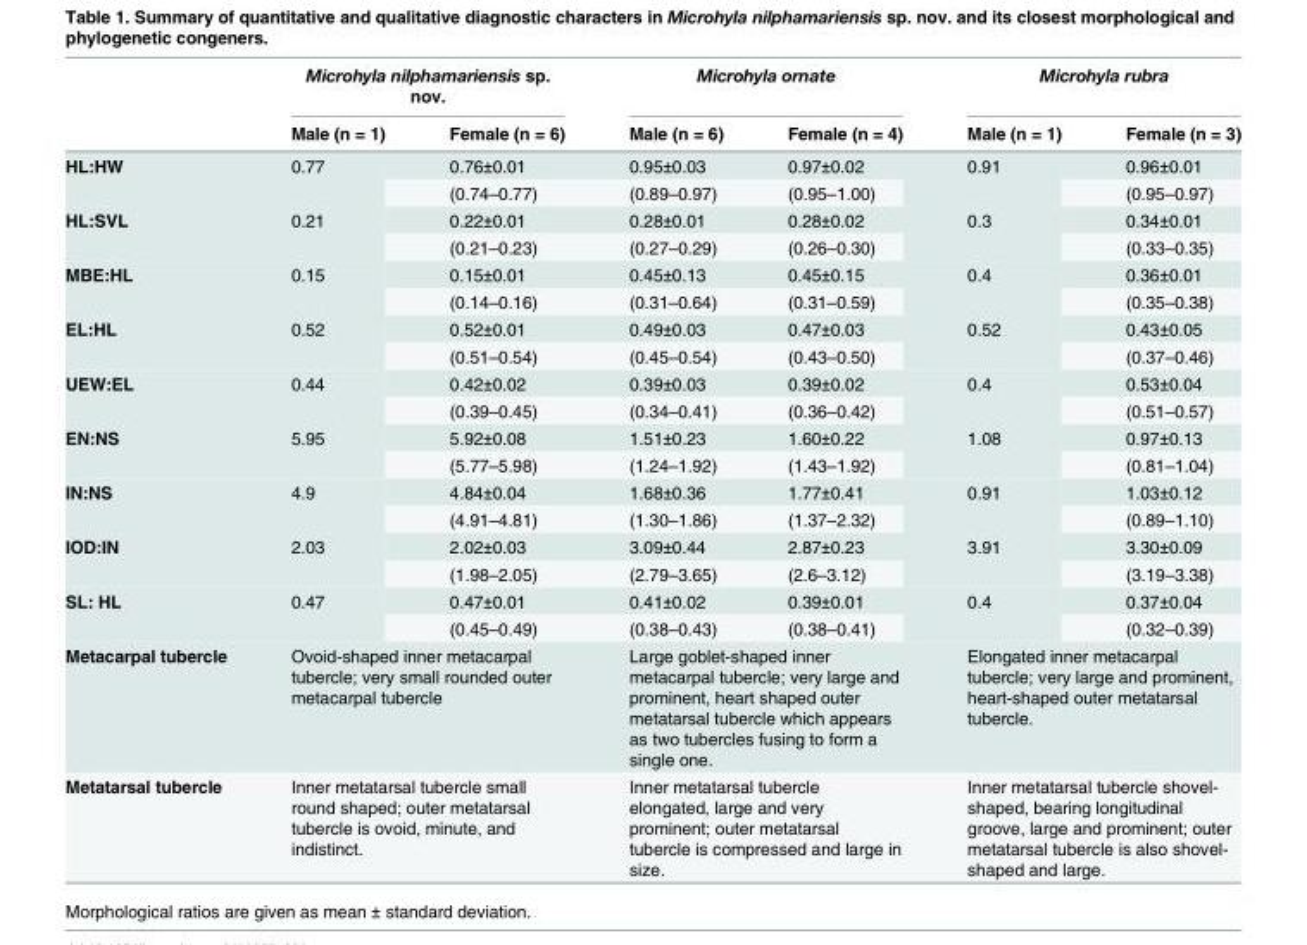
<table><thead><tr><td rowspan="2"></td><td colspan="2">Microhyla nilphamariensis sp. nov.</td><td colspan="2">Microhyla ornate</td><td colspan="2">Microhyla rubra</td></tr><tr><td>Male (n = 1)</td><td>Female (n = 6)</td><td>Male (n = 6)</td><td>Female (n = 4)</td><td>Male (n = 1)</td><td>Female (n = 3)</td></tr></thead><tbody><tr><td rowspan="2">HL:HW</td><td rowspan="2">0.77</td><td>0.76±0.01</td><td>0.95±0.03</td><td>0.97±0.02</td><td rowspan="2">0.91</td><td>0.96±0.01</td></tr><tr><td>(0.74–0.77)</td><td>(0.89–0.97)</td><td>(0.95–1.00)</td><td>(0.95–0.97)</td></tr><tr><td rowspan="2">HL:SVL</td><td rowspan="2">0.21</td><td>0.22±0.01</td><td>0.28±0.01</td><td>0.28±0.02</td><td rowspan="2">0.3</td><td>0.34±0.01</td></tr><tr><td>(0.21–0.23)</td><td>(0.27–0.29)</td><td>(0.26–0.30)</td><td>(0.33–0.35)</td></tr><tr><td rowspan="2">MBE:HL</td><td rowspan="2">0.15</td><td>0.15±0.01</td><td>0.45±0.13</td><td>0.45±0.15</td><td rowspan="2">0.4</td><td>0.36±0.01</td></tr><tr><td>(0.14–0.16)</td><td>(0.31–0.64)</td><td>(0.31–0.59)</td><td>(0.35–0.38)</td></tr><tr><td rowspan="2">EL:HL</td><td rowspan="2">0.52</td><td>0.52±0.01</td><td>0.49±0.03</td><td>0.47±0.03</td><td rowspan="2">0.52</td><td>0.43±0.05</td></tr><tr><td>(0.51–0.54)</td><td>(0.45–0.54)</td><td>(0.43–0.50)</td><td>(0.37–0.46)</td></tr><tr><td rowspan="2">UEW:EL</td><td rowspan="2">0.44</td><td>0.42±0.02</td><td>0.39±0.03</td><td>0.39±0.02</td><td rowspan="2">0.4</td><td>0.53±0.04</td></tr><tr><td>(0.39–0.45)</td><td>(0.34–0.41)</td><td>(0.36–0.42)</td><td>(0.51–0.57)</td></tr><tr><td rowspan="2">EN:NS</td><td rowspan="2">5.95</td><td>5.92±0.08</td><td>1.51±0.23</td><td>1.60±0.22</td><td rowspan="2">1.08</td><td>0.97±0.13</td></tr><tr><td>(5.77–5.98)</td><td>(1.24–1.92)</td><td>(1.43–1.92)</td><td>(0.81–1.04)</td></tr><tr><td rowspan="2">IN:NS</td><td rowspan="2">4.9</td><td>4.84±0.04</td><td>1.68±0.36</td><td>1.77±0.41</td><td rowspan="2">0.91</td><td>1.03±0.12</td></tr><tr><td>(4.91–4.81)</td><td>(1.30–1.86)</td><td>(1.37–2.32)</td><td>(0.89–1.10)</td></tr><tr><td rowspan="2">IOD:IN</td><td rowspan="2">2.03</td><td>2.02±0.03</td><td>3.09±0.44</td><td>2.87±0.23</td><td rowspan="2">3.91</td><td>3.30±0.09</td></tr><tr><td>(1.98–2.05)</td><td>(2.79–3.65)</td><td>(2.6–3.12)</td><td>(3.19–3.38)</td></tr><tr><td rowspan="2">SL: HL</td><td rowspan="2">0.47</td><td>0.47±0.01</td><td>0.41±0.02</td><td>0.39±0.01</td><td rowspan="2">0.4</td><td>0.37±0.04</td></tr><tr><td>(0.45–0.49)</td><td>(0.38–0.43)</td><td>(0.38–0.41)</td><td>(0.32–0.39)</td></tr><tr><td>Metacarpal tubercle</td><td colspan="2">Ovoid-shaped inner metacarpal tubercle; very small rounded outer metacarpal tubercle</td><td colspan="2">Large goblet-shaped inner metacarpal tubercle; very large and prominent, heart shaped outer metatarsal tubercle which appears as two tubercles fusing to form a single one.</td><td colspan="2">Elongated inner metacarpal tubercle; very large and prominent, heart-shaped outer metatarsal tubercle.</td></tr><tr><td>Metatarsal tubercle</td><td colspan="2">Inner metatarsal tubercle small round shaped; outer metatarsal tubercle is ovoid, minute, and indistinct.</td><td colspan="2">Inner metatarsal tubercle elongated, large and very prominent; outer metatarsal tubercle is compressed and large in size.</td><td colspan="2">Inner metatarsal tubercle shovel- shaped, bearing longitudinal groove, large and prominent; outer metatarsal tubercle is also shovel- shaped and large.</td></tr></tbody></table>